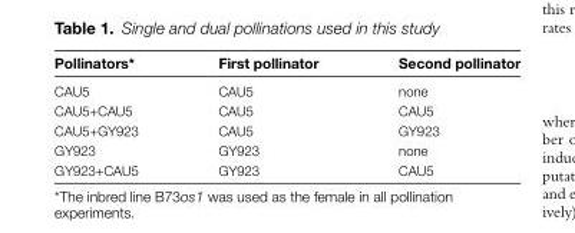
<table><thead><tr><td>Pollinators*</td><td>First pollinator</td><td>Second pollinator</td></tr></thead><tbody><tr><td>CAU5</td><td>CAU5</td><td>none</td></tr><tr><td>CAU5+CAU5</td><td>CAU5</td><td>CAU5</td></tr><tr><td>CAU5+GY923</td><td>CAU5</td><td>GY923</td></tr><tr><td>GY923</td><td>GY923</td><td>none</td></tr><tr><td>GY923+CAU5</td><td>GY923</td><td>CAU5</td></tr></tbody></table>